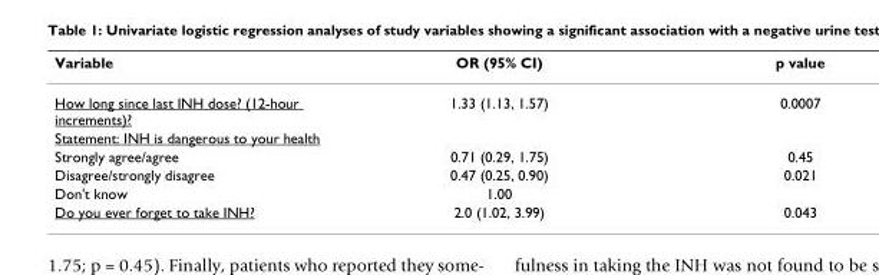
<table><thead><tr><td>Variable</td><td>OR (95% CI)</td><td>p value</td></tr></thead><tbody><tr><td>How long since last INH dose? (12-hour increments)?</td><td>1.33 (1.13, 1.57)</td><td>0.0007</td></tr><tr><td colspan="3">Statement: INH is dangerous to your health</td></tr><tr><td>Strongly agree/agree</td><td>0.71 (0.29, 1.75)</td><td>0.45</td></tr><tr><td>Disagree/strongly disagree</td><td>0.47 (0.25, 0.90)</td><td>0.021</td></tr><tr><td>Don&#x27;t know</td><td>1.00</td><td></td></tr><tr><td>Do you ever forget to take INH?</td><td>2.0 (1.02, 3.99)</td><td>0.043</td></tr></tbody></table>